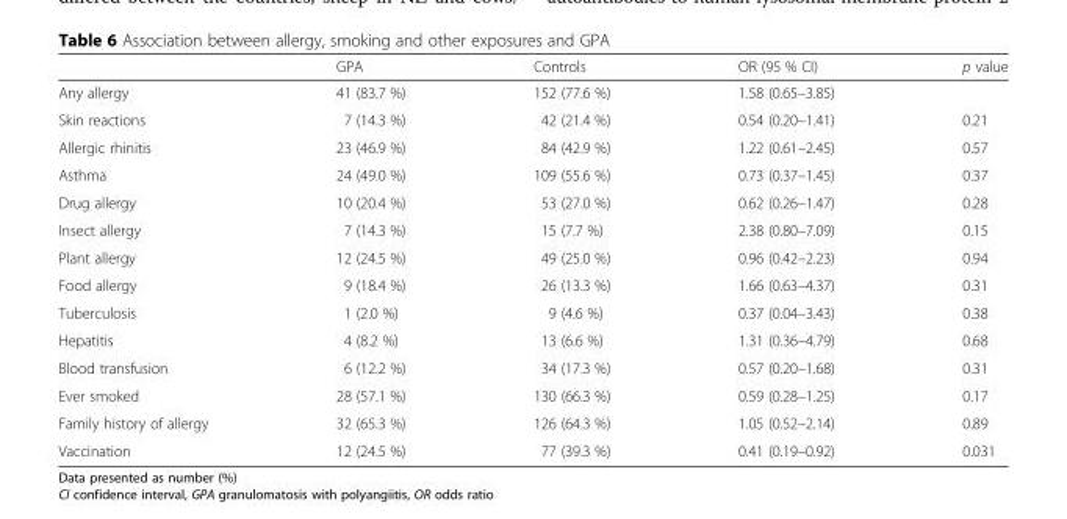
<table><thead><tr><td></td><td>GPA</td><td>Controls</td><td>OR (95 % CI)</td><td>p value</td></tr></thead><tbody><tr><td>Any allergy</td><td>41 (83.7 %)</td><td>152 (77.6 %)</td><td>1.58 (0.65–3.85)</td><td></td></tr><tr><td>Skin reactions</td><td>7 (14.3 %)</td><td>42 (21.4 %)</td><td>0.54 (0.20–1.41)</td><td>0.21</td></tr><tr><td>Allergic rhinitis</td><td>23 (46.9 %)</td><td>84 (42.9 %)</td><td>1.22 (0.61–2.45)</td><td>0.57</td></tr><tr><td>Asthma</td><td>24 (49.0 %)</td><td>109 (55.6 %)</td><td>0.73 (0.37–1.45)</td><td>0.37</td></tr><tr><td>Drug allergy</td><td>10 (20.4 %)</td><td>53 (27.0 %)</td><td>0.62 (0.26–1.47)</td><td>0.28</td></tr><tr><td>Insect allergy</td><td>7 (14.3 %)</td><td>15 (7.7 %)</td><td>2.38 (0.80–7.09)</td><td>0.15</td></tr><tr><td>Plant allergy</td><td>12 (24.5 %)</td><td>49 (25.0 %)</td><td>0.96 (0.42–2.23)</td><td>0.94</td></tr><tr><td>Food allergy</td><td>9 (18.4 %)</td><td>26 (13.3 %)</td><td>1.66 (0.63–4.37)</td><td>0.31</td></tr><tr><td>Tuberculosis</td><td>1 (2.0 %)</td><td>9 (4.6 %)</td><td>0.37 (0.04–3.43)</td><td>0.38</td></tr><tr><td>Hepatitis</td><td>4 (8.2 %)</td><td>13 (6.6 %)</td><td>1.31 (0.36–4.79)</td><td>0.68</td></tr><tr><td>Blood transfusion</td><td>6 (12.2 %)</td><td>34 (17.3 %)</td><td>0.57 (0.20–1.68)</td><td>0.31</td></tr><tr><td>Ever smoked</td><td>28 (57.1 %)</td><td>130 (66.3 %)</td><td>0.59 (0.28–1.25)</td><td>0.17</td></tr><tr><td>Family history of allergy</td><td>32 (65.3 %)</td><td>126 (64.3 %)</td><td>1.05 (0.52–2.14)</td><td>0.89</td></tr><tr><td>Vaccination</td><td>12 (24.5 %)</td><td>77 (39.3 %)</td><td>0.41 (0.19–0.92)</td><td>0.031</td></tr></tbody></table>